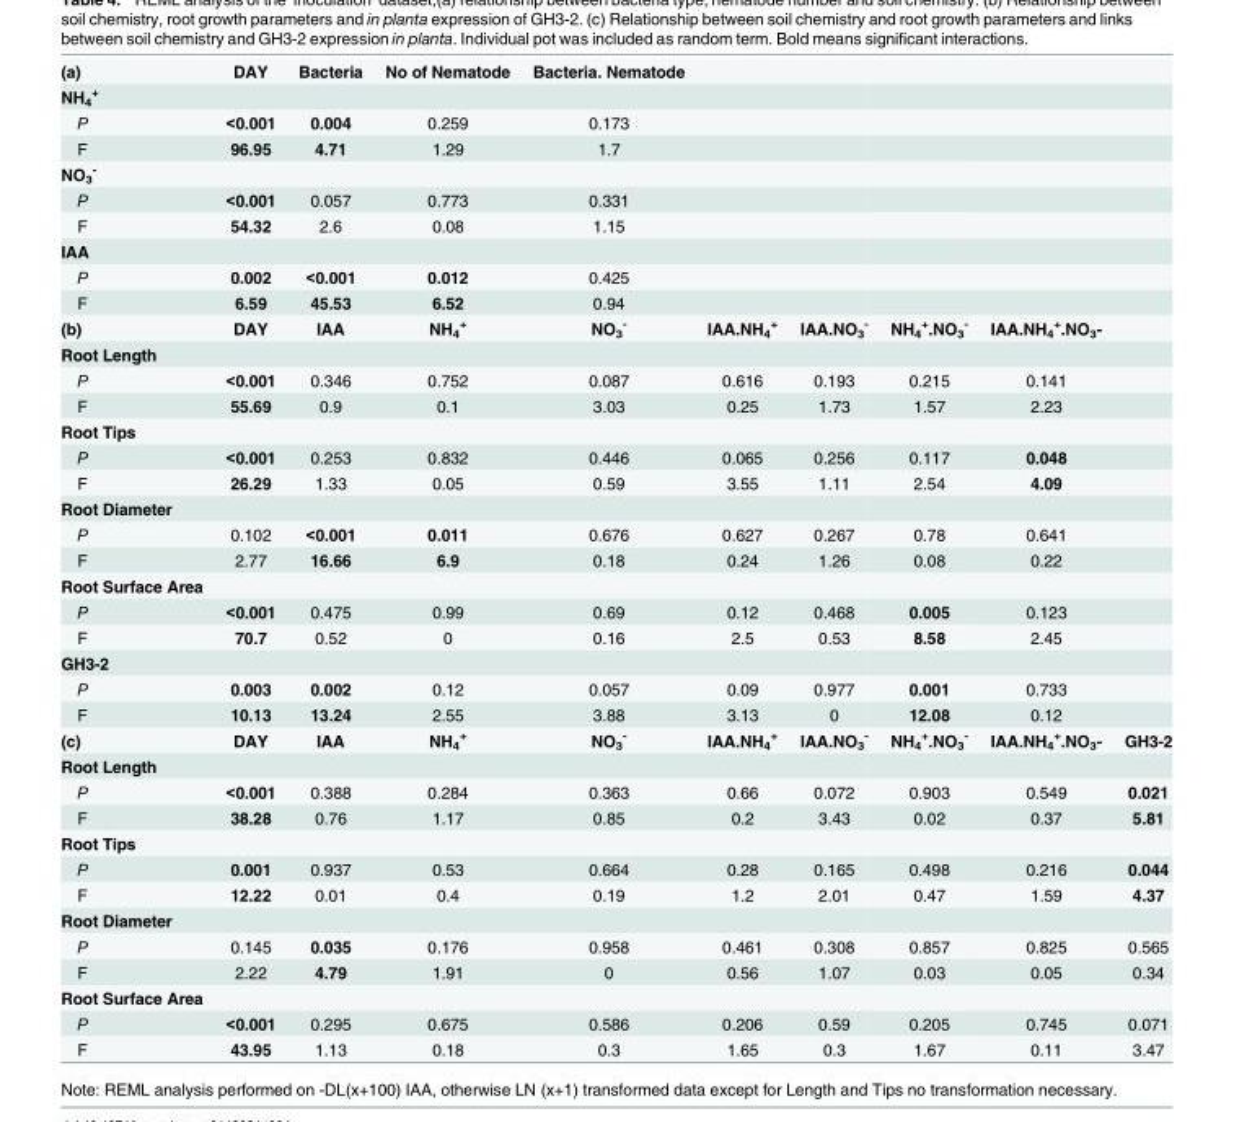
<table><tbody><tr><td>(a)</td><td>DAY</td><td>Bacteria</td><td>No of Nematode</td><td>Bacteria. Nematode</td><td></td><td></td><td></td><td></td><td></td></tr><tr><td colspan="10">NH<sub>4</sub> <sup>+</sup></td></tr><tr><td>P</td><td>&lt;0.001</td><td>0.004</td><td>0.259</td><td>0.173</td><td></td><td></td><td></td><td></td><td></td></tr><tr><td>F</td><td>96.95</td><td>4.71</td><td>1.29</td><td>1.7</td><td></td><td></td><td></td><td></td><td></td></tr><tr><td colspan="10">NO<sub>3</sub> <sup>-</sup></td></tr><tr><td>P</td><td>&lt;0.001</td><td>0.057</td><td>0.773</td><td>0.331</td><td></td><td></td><td></td><td></td><td></td></tr><tr><td>F</td><td>54.32</td><td>2.6</td><td>0.08</td><td>1.15</td><td></td><td></td><td></td><td></td><td></td></tr><tr><td colspan="10">IAA</td></tr><tr><td>P</td><td>0.002</td><td>&lt;0.001</td><td>0.012</td><td>0.425</td><td></td><td></td><td></td><td></td><td></td></tr><tr><td>F</td><td>6.59</td><td>45.53</td><td>6.52</td><td>0.94</td><td></td><td></td><td></td><td></td><td></td></tr><tr><td>(b)</td><td>DAY</td><td>IAA</td><td>NH<sub>4</sub> <sup>+</sup></td><td>NO<sub>3</sub> <sup>-</sup></td><td>IAA.NH<sub>4</sub> <sup>+</sup></td><td>IAA.NO<sub>3</sub> <sup>-</sup></td><td>NH<sub>4</sub> <sup>+</sup>.NO<sub>3</sub> <sup>-</sup></td><td>IAA.NH<sub>4</sub> <sup>+</sup>.NO<sub>3</sub>-</td><td></td></tr><tr><td colspan="10">Root Length</td></tr><tr><td>P</td><td>&lt;0.001</td><td>0.346</td><td>0.752</td><td>0.087</td><td>0.616</td><td>0.193</td><td>0.215</td><td>0.141</td><td></td></tr><tr><td>F</td><td>55.69</td><td>0.9</td><td>0.1</td><td>3.03</td><td>0.25</td><td>1.73</td><td>1.57</td><td>2.23</td><td></td></tr><tr><td colspan="10">Root Tips</td></tr><tr><td>P</td><td>&lt;0.001</td><td>0.253</td><td>0.832</td><td>0.446</td><td>0.065</td><td>0.256</td><td>0.117</td><td>0.048</td><td></td></tr><tr><td>F</td><td>26.29</td><td>1.33</td><td>0.05</td><td>0.59</td><td>3.55</td><td>1.11</td><td>2.54</td><td>4.09</td><td></td></tr><tr><td colspan="10">Root Diameter</td></tr><tr><td>P</td><td>0.102</td><td>&lt;0.001</td><td>0.011</td><td>0.676</td><td>0.627</td><td>0.267</td><td>0.78</td><td>0.641</td><td></td></tr><tr><td>F</td><td>2.77</td><td>16.66</td><td>6.9</td><td>0.18</td><td>0.24</td><td>1.26</td><td>0.08</td><td>0.22</td><td></td></tr><tr><td colspan="10">Root Surface Area</td></tr><tr><td>P</td><td>&lt;0.001</td><td>0.475</td><td>0.99</td><td>0.69</td><td>0.12</td><td>0.468</td><td>0.005</td><td>0.123</td><td></td></tr><tr><td>F</td><td>70.7</td><td>0.52</td><td>0</td><td>0.16</td><td>2.5</td><td>0.53</td><td>8.58</td><td>2.45</td><td></td></tr><tr><td colspan="10">GH3-2</td></tr><tr><td>P</td><td>0.003</td><td>0.002</td><td>0.12</td><td>0.057</td><td>0.09</td><td>0.977</td><td>0.001</td><td>0.733</td><td></td></tr><tr><td>F</td><td>10.13</td><td>13.24</td><td>2.55</td><td>3.88</td><td>3.13</td><td>0</td><td>12.08</td><td>0.12</td><td></td></tr><tr><td>(c)</td><td>DAY</td><td>IAA</td><td>NH<sub>4</sub> <sup>+</sup></td><td>NO<sub>3</sub> <sup>-</sup></td><td>IAA.NH<sub>4</sub> <sup>+</sup></td><td>IAA.NO<sub>3</sub> <sup>-</sup></td><td>NH<sub>4</sub> <sup>+</sup>.NO<sub>3</sub> <sup>-</sup></td><td>IAA.NH<sub>4</sub> <sup>+</sup>.NO<sub>3</sub>-</td><td>GH3-2</td></tr><tr><td colspan="10">Root Length</td></tr><tr><td>P</td><td>&lt;0.001</td><td>0.388</td><td>0.284</td><td>0.363</td><td>0.66</td><td>0.072</td><td>0.903</td><td>0.549</td><td>0.021</td></tr><tr><td>F</td><td>38.28</td><td>0.76</td><td>1.17</td><td>0.85</td><td>0.2</td><td>3.43</td><td>0.02</td><td>0.37</td><td>5.81</td></tr><tr><td colspan="10">Root Tips</td></tr><tr><td>P</td><td>0.001</td><td>0.937</td><td>0.53</td><td>0.664</td><td>0.28</td><td>0.165</td><td>0.498</td><td>0.216</td><td>0.044</td></tr><tr><td>F</td><td>12.22</td><td>0.01</td><td>0.4</td><td>0.19</td><td>1.2</td><td>2.01</td><td>0.47</td><td>1.59</td><td>4.37</td></tr><tr><td colspan="10">Root Diameter</td></tr><tr><td>P</td><td>0.145</td><td>0.035</td><td>0.176</td><td>0.958</td><td>0.461</td><td>0.308</td><td>0.857</td><td>0.825</td><td>0.565</td></tr><tr><td>F</td><td>2.22</td><td>4.79</td><td>1.91</td><td>0</td><td>0.56</td><td>1.07</td><td>0.03</td><td>0.05</td><td>0.34</td></tr><tr><td colspan="10">Root Surface Area</td></tr><tr><td>P</td><td>&lt;0.001</td><td>0.295</td><td>0.675</td><td>0.586</td><td>0.206</td><td>0.59</td><td>0.205</td><td>0.745</td><td>0.071</td></tr><tr><td>F</td><td>43.95</td><td>1.13</td><td>0.18</td><td>0.3</td><td>1.65</td><td>0.3</td><td>1.67</td><td>0.11</td><td>3.47</td></tr></tbody></table>